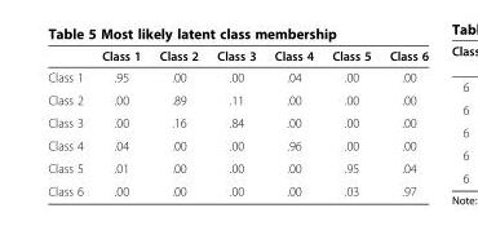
<table><thead><tr><td></td><td>Class 1</td><td>Class 2</td><td>Class 3</td><td>Class 4</td><td>Class 5</td><td>Class 6</td></tr></thead><tbody><tr><td>Class 1</td><td>.95</td><td>.00</td><td>.00</td><td>.04</td><td>.00</td><td>.00</td></tr><tr><td>Class 2</td><td>.00</td><td>.89</td><td>.11</td><td>.00</td><td>.00</td><td>.00</td></tr><tr><td>Class 3</td><td>.00</td><td>.16</td><td>.84</td><td>.00</td><td>.00</td><td>.00</td></tr><tr><td>Class 4</td><td>.04</td><td>.00</td><td>.00</td><td>.96</td><td>.00</td><td>.00</td></tr><tr><td>Class 5</td><td>.01</td><td>.00</td><td>.00</td><td>.00</td><td>.95</td><td>.04</td></tr><tr><td>Class 6</td><td>.00</td><td>.00</td><td>.00</td><td>.00</td><td>.03</td><td>.97</td></tr></tbody></table>